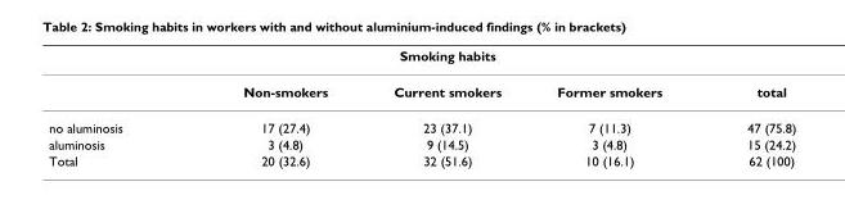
<table><thead><tr><td rowspan="2"></td><td colspan="3">Smoking habits</td><td rowspan="2">total</td></tr><tr><td>Non-smokers</td><td>Current smokers</td><td>Former smokers</td></tr></thead><tbody><tr><td>no aluminosis</td><td>17 (27.4)</td><td>23 (37.1)</td><td>7 (11.3)</td><td>47 (75.8)</td></tr><tr><td>aluminosis</td><td>3 (4.8)</td><td>9 (14.5)</td><td>3 (4.8)</td><td>15 (24.2)</td></tr><tr><td>Total</td><td>20 (32.6)</td><td>32 (51.6)</td><td>10 (16.1)</td><td>62 (100)</td></tr></tbody></table>